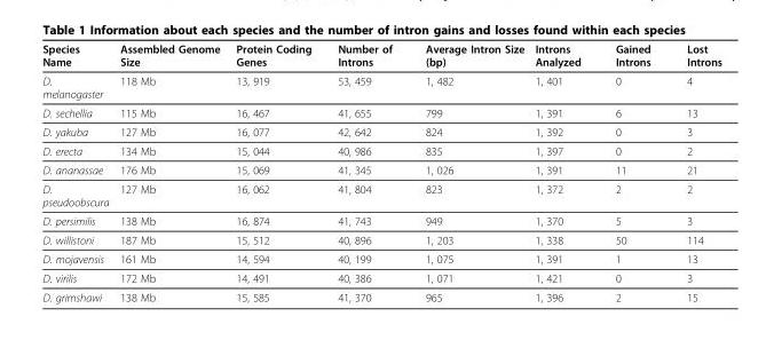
<table><thead><tr><td>Species Name</td><td>Assembled Genome Size</td><td>Protein Coding Genes</td><td>Number of Introns</td><td>Average Intron Size (bp)</td><td>Introns Analyzed</td><td>Gained Introns</td><td>Lost Introns</td></tr></thead><tbody><tr><td>D. melanogaster</td><td>118 Mb</td><td>13, 919</td><td>53, 459</td><td>1, 482</td><td>1, 401</td><td>0</td><td>4</td></tr><tr><td>D. sechellia</td><td>115 Mb</td><td>16, 467</td><td>41, 655</td><td>799</td><td>1, 391</td><td>6</td><td>13</td></tr><tr><td>D. yakuba</td><td>127 Mb</td><td>16, 077</td><td>42, 642</td><td>824</td><td>1, 392</td><td>0</td><td>3</td></tr><tr><td>D. erecta</td><td>134 Mb</td><td>15, 044</td><td>40, 986</td><td>835</td><td>1, 397</td><td>0</td><td>2</td></tr><tr><td>D. ananassae</td><td>176 Mb</td><td>15, 069</td><td>41, 345</td><td>1, 026</td><td>1, 391</td><td>11</td><td>21</td></tr><tr><td>D. pseudoobscura</td><td>127 Mb</td><td>16, 062</td><td>41, 804</td><td>823</td><td>1, 372</td><td>2</td><td>2</td></tr><tr><td>D. persimilis</td><td>138 Mb</td><td>16, 874</td><td>41, 743</td><td>949</td><td>1, 370</td><td>5</td><td>3</td></tr><tr><td>D. willistoni</td><td>187 Mb</td><td>15, 512</td><td>40, 896</td><td>1, 203</td><td>1, 338</td><td>50</td><td>114</td></tr><tr><td>D. mojavensis</td><td>161 Mb</td><td>14, 594</td><td>40, 199</td><td>1, 075</td><td>1, 391</td><td>1</td><td>13</td></tr><tr><td>D. virilis</td><td>172 Mb</td><td>14, 491</td><td>40, 386</td><td>1, 071</td><td>1, 421</td><td>0</td><td>3</td></tr><tr><td>D. grimshawi</td><td>138 Mb</td><td>15, 585</td><td>41, 370</td><td>965</td><td>1, 396</td><td>2</td><td>15</td></tr></tbody></table>